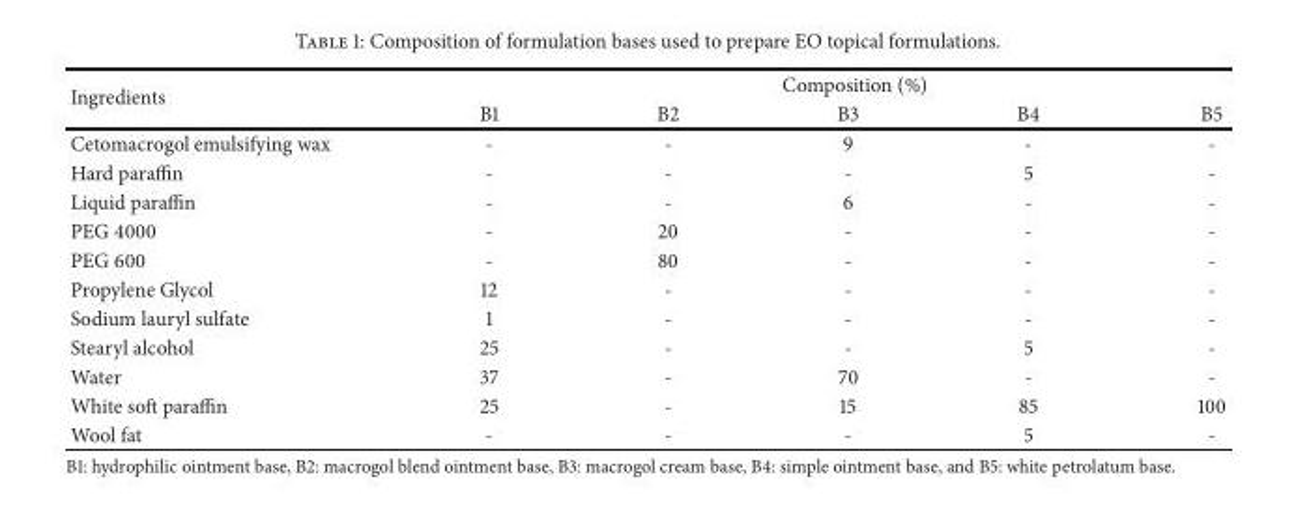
<table><thead><tr><td rowspan="2">Ingredients</td><td colspan="5">Composition (%)</td></tr><tr><td>B1</td><td>B2</td><td>B3</td><td>B4</td><td>B5</td></tr></thead><tbody><tr><td>Cetomacrogol emulsifying wax</td><td>-</td><td>-</td><td>9</td><td>-</td><td>-</td></tr><tr><td>Hard paraffin</td><td>-</td><td>-</td><td>-</td><td>5</td><td>-</td></tr><tr><td>Liquid paraffin</td><td>-</td><td>-</td><td>6</td><td>-</td><td>-</td></tr><tr><td>PEG 4000</td><td>-</td><td>20</td><td>-</td><td>-</td><td>-</td></tr><tr><td>PEG 600</td><td>-</td><td>80</td><td>-</td><td>-</td><td>-</td></tr><tr><td>Propylene Glycol</td><td>12</td><td>-</td><td>-</td><td>-</td><td>-</td></tr><tr><td>Sodium lauryl sulfate</td><td>1</td><td>-</td><td>-</td><td>-</td><td>-</td></tr><tr><td>Stearyl alcohol</td><td>25</td><td>-</td><td>-</td><td>5</td><td>-</td></tr><tr><td>Water</td><td>37</td><td>-</td><td>70</td><td>-</td><td>-</td></tr><tr><td>White soft paraffin</td><td>25</td><td>-</td><td>15</td><td>85</td><td>100</td></tr><tr><td>Wool fat</td><td>-</td><td>-</td><td>-</td><td>5</td><td>-</td></tr></tbody></table>